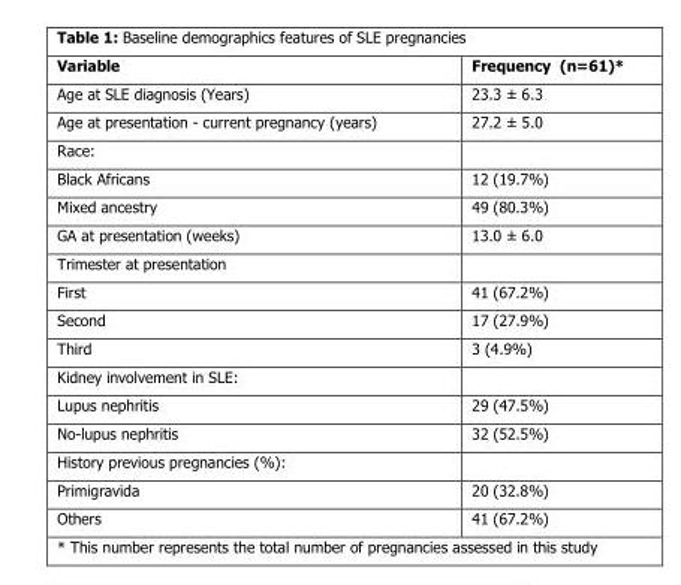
<table><thead><tr><td>Variable</td><td>Frequency (n=61)*</td></tr></thead><tbody><tr><td>Age at SLE diagnosis (Years)</td><td>23.3 ± 6.3</td></tr><tr><td>Age at presentation - current pregnancy (years)</td><td>27.2 ± 5.0</td></tr><tr><td colspan="2">Race:</td></tr><tr><td>Black Africans</td><td>12 (19.7%)</td></tr><tr><td>Mixed ancestry</td><td>49 (80.3%)</td></tr><tr><td>GA at presentation (weeks)</td><td>13.0 ± 6.0</td></tr><tr><td colspan="2">Trimester at presentation</td></tr><tr><td>First</td><td>41 (67.2%)</td></tr><tr><td>Second</td><td>17 (27.9%)</td></tr><tr><td>Third</td><td>3 (4.9%)</td></tr><tr><td colspan="2">Kidney involvement in SLE:</td></tr><tr><td>Lupus nephritis</td><td>29 (47.5%)</td></tr><tr><td>No-lupus nephritis</td><td>32 (52.5%)</td></tr><tr><td colspan="2">History previous pregnancies (%):</td></tr><tr><td>Primigravida</td><td>20 (32.8%)</td></tr><tr><td>Others</td><td>41 (67.2%)</td></tr></tbody></table>